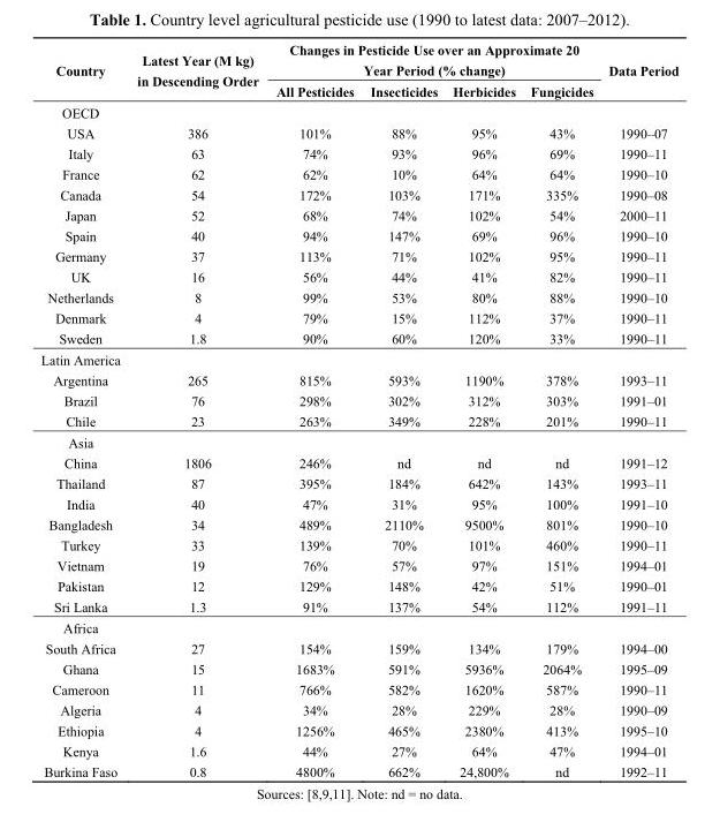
<table><thead><tr><td rowspan="2">Country</td><td rowspan="2">Latest Year (M kg) in Descending Order</td><td colspan="4">Changes in Pesticide Use over an Approximate 20 Year Period (% change)</td><td rowspan="2">Data Period</td></tr><tr><td>All Pesticides</td><td>Insecticides</td><td>Herbicides</td><td>Fungicides</td></tr></thead><tbody><tr><td colspan="7">OECD</td></tr><tr><td>USA</td><td>386</td><td>101%</td><td>88%</td><td>95%</td><td>43%</td><td>1990–07</td></tr><tr><td>Italy</td><td>63</td><td>74%</td><td>93%</td><td>96%</td><td>69%</td><td>1990–11</td></tr><tr><td>France</td><td>62</td><td>62%</td><td>10%</td><td>64%</td><td>64%</td><td>1990–10</td></tr><tr><td>Canada</td><td>54</td><td>172%</td><td>103%</td><td>171%</td><td>335%</td><td>1990–08</td></tr><tr><td>Japan</td><td>52</td><td>68%</td><td>74%</td><td>102%</td><td>54%</td><td>2000–11</td></tr><tr><td>Spain</td><td>40</td><td>94%</td><td>147%</td><td>69%</td><td>96%</td><td>1990–10</td></tr><tr><td>Germany</td><td>37</td><td>113%</td><td>71%</td><td>102%</td><td>95%</td><td>1990–11</td></tr><tr><td>UK</td><td>16</td><td>56%</td><td>44%</td><td>41%</td><td>82%</td><td>1990–11</td></tr><tr><td>Netherlands</td><td>8</td><td>99%</td><td>53%</td><td>80%</td><td>88%</td><td>1990–10</td></tr><tr><td>Denmark</td><td>4</td><td>79%</td><td>15%</td><td>112%</td><td>37%</td><td>1990–11</td></tr><tr><td>Sweden</td><td>1.8</td><td>90%</td><td>60%</td><td>120%</td><td>33%</td><td>1990–11</td></tr><tr><td colspan="7">Latin America</td></tr><tr><td>Argentina</td><td>265</td><td>815%</td><td>593%</td><td>1190%</td><td>378%</td><td>1993–11</td></tr><tr><td>Brazil</td><td>76</td><td>298%</td><td>302%</td><td>312%</td><td>303%</td><td>1991–01</td></tr><tr><td>Chile</td><td>23</td><td>263%</td><td>349%</td><td>228%</td><td>201%</td><td>1990–11</td></tr><tr><td colspan="7">Asia</td></tr><tr><td>China</td><td>1806</td><td>246%</td><td>nd</td><td>nd</td><td>nd</td><td>1991–12</td></tr><tr><td>Thailand</td><td>87</td><td>395%</td><td>184%</td><td>642%</td><td>143%</td><td>1993–11</td></tr><tr><td>India</td><td>40</td><td>47%</td><td>31%</td><td>95%</td><td>100%</td><td>1991–10</td></tr><tr><td>Bangladesh</td><td>34</td><td>489%</td><td>2110%</td><td>9500%</td><td>801%</td><td>1990–10</td></tr><tr><td>Turkey</td><td>33</td><td>139%</td><td>70%</td><td>101%</td><td>460%</td><td>1990–11</td></tr><tr><td>Vietnam</td><td>19</td><td>76%</td><td>57%</td><td>97%</td><td>151%</td><td>1994–01</td></tr><tr><td>Pakistan</td><td>12</td><td>129%</td><td>148%</td><td>42%</td><td>51%</td><td>1990–01</td></tr><tr><td>Sri Lanka</td><td>1.3</td><td>91%</td><td>137%</td><td>54%</td><td>112%</td><td>1991–11</td></tr><tr><td colspan="7">Africa</td></tr><tr><td>South Africa</td><td>27</td><td>154%</td><td>159%</td><td>134%</td><td>179%</td><td>1994–00</td></tr><tr><td>Ghana</td><td>15</td><td>1683%</td><td>591%</td><td>5936%</td><td>2064%</td><td>1995–09</td></tr><tr><td>Cameroon</td><td>11</td><td>766%</td><td>582%</td><td>1620%</td><td>587%</td><td>1990–11</td></tr><tr><td>Algeria</td><td>4</td><td>34%</td><td>28%</td><td>229%</td><td>28%</td><td>1990–09</td></tr><tr><td>Ethiopia</td><td>4</td><td>1256%</td><td>465%</td><td>2380%</td><td>413%</td><td>1995–10</td></tr><tr><td>Kenya</td><td>1.6</td><td>44%</td><td>27%</td><td>64%</td><td>47%</td><td>1994–01</td></tr><tr><td>Burkina Faso</td><td>0.8</td><td>4800%</td><td>662%</td><td>24,800%</td><td>nd</td><td>1992–11</td></tr></tbody></table>